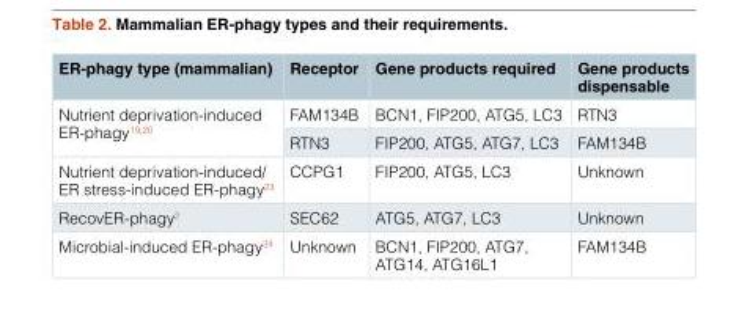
<table><thead><tr><td>ER-phagy type (mammalian)</td><td>Receptor</td><td>Gene products required</td><td>Gene products dispensable</td></tr></thead><tbody><tr><td rowspan="2">Nutrient deprivation-induced ER-phagy<sup>19,20</sup></td><td>FAM134B</td><td>BCN1, FIP200, ATG5, LC3</td><td>RTN3</td></tr><tr><td>RTN3</td><td>FIP200, ATG5, ATG7, LC3</td><td>FAM134B</td></tr><tr><td>Nutrient deprivation-induced/ ER stress-induced ER-phagy<sup>23</sup></td><td>CCPG1</td><td>FIP200, ATG5, LC3</td><td>Unknown</td></tr><tr><td>RecovER-phagy<sup>2</sup></td><td>SEC62</td><td>ATG5, ATG7, LC3</td><td>Unknown</td></tr><tr><td>Microbial-induced ER-phagy<sup>24</sup></td><td>Unknown</td><td>BCN1, FIP200, ATG7, ATG14, ATG16L1</td><td>FAM134B</td></tr></tbody></table>